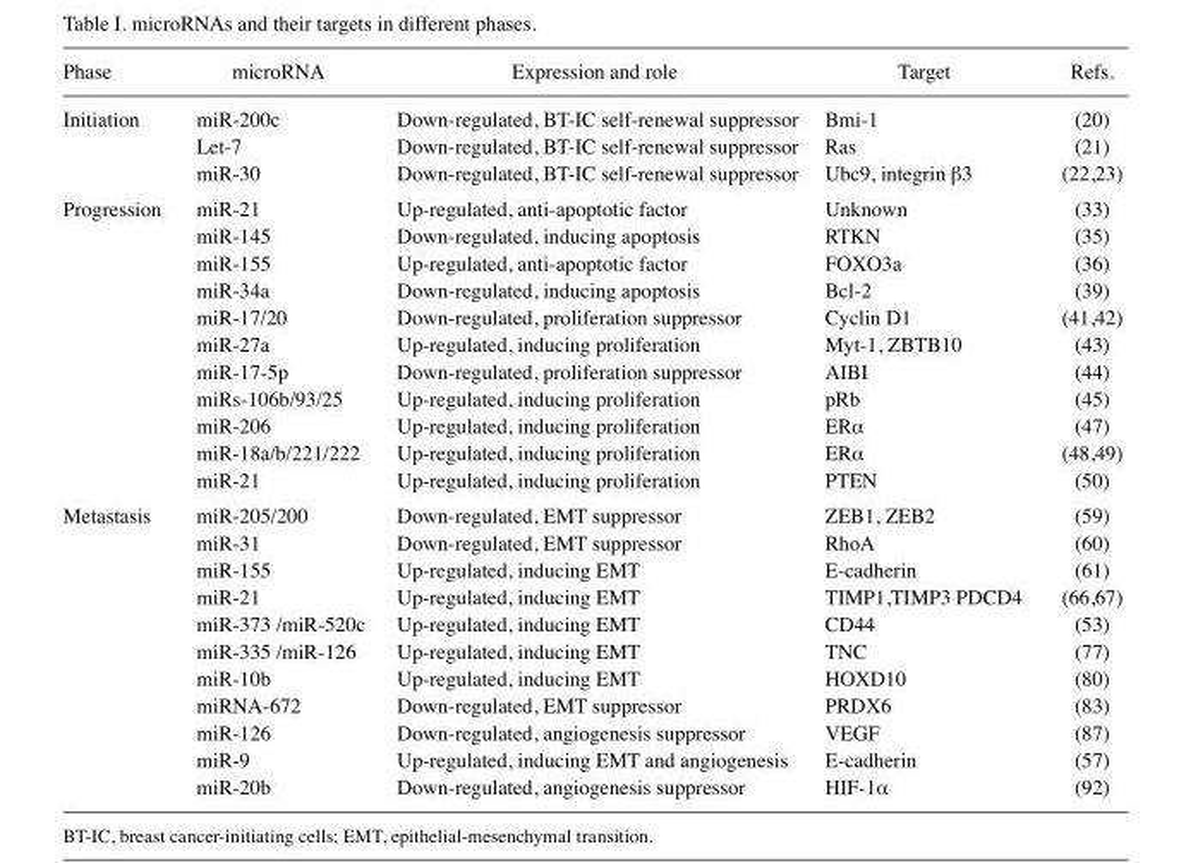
<table><thead><tr><td>Phase</td><td>microRNA</td><td>Expression and role</td><td>Target</td><td>Refs.</td></tr></thead><tbody><tr><td rowspan="3">Initiation</td><td>miR-200c</td><td>Down-regulated, BT-IC self-renewal suppressor</td><td>Bmi-1</td><td>(20)</td></tr><tr><td>Let-7</td><td>Down-regulated, BT-IC self-renewal suppressor</td><td>Ras</td><td>(21)</td></tr><tr><td>miR-30</td><td>Down-regulated, BT-IC self-renewal suppressor</td><td>Ubc9, integrin β3</td><td>(22,23)</td></tr><tr><td rowspan="11">Progression</td><td>miR-21</td><td>Up-regulated, anti-apoptotic factor</td><td>Unknown</td><td>(33)</td></tr><tr><td>miR-145</td><td>Down-regulated, inducing apoptosis</td><td>RTKN</td><td>(35)</td></tr><tr><td>miR-155</td><td>Up-regulated, anti-apoptotic factor</td><td>FOXO3a</td><td>(36)</td></tr><tr><td>miR-34a</td><td>Down-regulated, inducing apoptosis</td><td>Bcl-2</td><td>(39)</td></tr><tr><td>miR-17/20</td><td>Down-regulated, proliferation suppressor</td><td>Cyclin D1</td><td>(41,42)</td></tr><tr><td>miR-27a</td><td>Up-regulated, inducing proliferation</td><td>Myt-1, ZBTB10</td><td>(43)</td></tr><tr><td>miR-17-5p</td><td>Down-regulated, proliferation suppressor</td><td>AIBI</td><td>(44)</td></tr><tr><td>miRs-106b/93/25</td><td>Up-regulated, inducing proliferation</td><td>pRb</td><td>(45)</td></tr><tr><td>miR-206</td><td>Up-regulated, inducing proliferation</td><td>ERα</td><td>(47)</td></tr><tr><td>miR-18a/b/221/222</td><td>Up-regulated, inducing proliferation</td><td>ERα</td><td>(48,49)</td></tr><tr><td>miR-21</td><td>Up-regulated, inducing proliferation</td><td>PTEN</td><td>(50)</td></tr><tr><td rowspan="11">Metastasis</td><td>miR-205/200</td><td>Down-regulated, EMT suppressor</td><td>ZEB1, ZEB2</td><td>(59)</td></tr><tr><td>miR-31</td><td>Down-regulated, EMT suppressor</td><td>RhoA</td><td>(60)</td></tr><tr><td>miR-155</td><td>Up-regulated, inducing EMT</td><td>E-cadherin</td><td>(61)</td></tr><tr><td>miR-21</td><td>Up-regulated, inducing EMT</td><td>TIMP1,TIMP3 PDCD4</td><td>(66,67)</td></tr><tr><td>miR-373 /miR-520c</td><td>Up-regulated, inducing EMT</td><td>CD44</td><td>(53)</td></tr><tr><td>miR-335 /miR-126</td><td>Up-regulated, inducing EMT</td><td>TNC</td><td>(77)</td></tr><tr><td>miR-10b</td><td>Up-regulated, inducing EMT</td><td>HOXD10</td><td>(80)</td></tr><tr><td>miRNA-672</td><td>Down-regulated, EMT suppressor</td><td>PRDX6</td><td>(83)</td></tr><tr><td>miR-126</td><td>Down-regulated, angiogenesis suppressor</td><td>VEGF</td><td>(87)</td></tr><tr><td>miR-9</td><td>Up-regulated, inducing EMT and angiogenesis</td><td>E-cadherin</td><td>(57)</td></tr><tr><td>miR-20b</td><td>Down-regulated, angiogenesis suppressor</td><td>HIF-1α</td><td>(92)</td></tr></tbody></table>